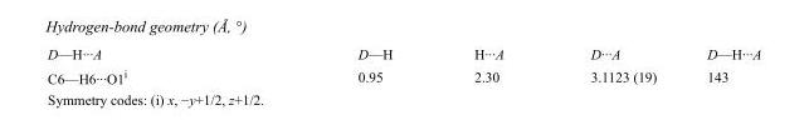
<table><tbody><tr><td>D—H···A</td><td>D—H</td><td>H···A</td><td>D···A</td><td>D—H···A</td></tr><tr><td>C6—H6···O1<sup>i</sup></td><td>0.95</td><td>2.30</td><td>3.1123 (19)</td><td>143</td></tr></tbody></table>